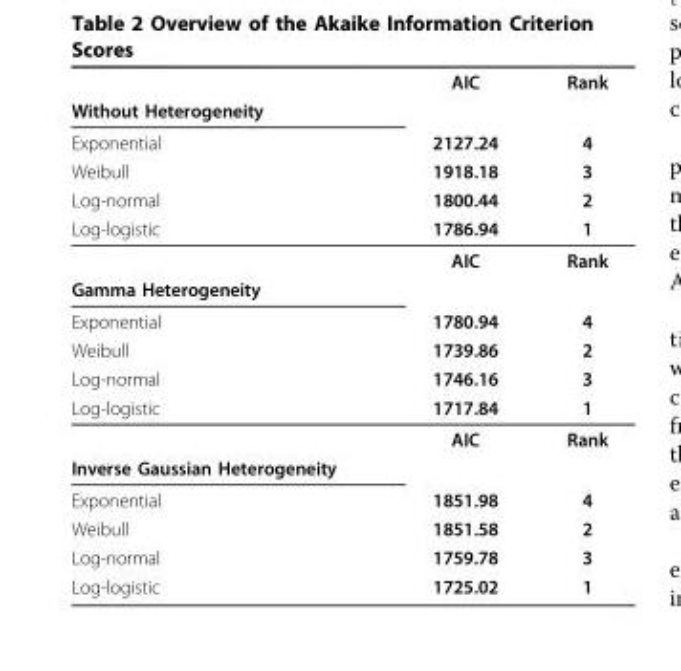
<table><thead><tr><td rowspan="6">Without Heterogeneity Exponential Weibull Log-normal Log-logistic</td><td rowspan="6">AIC 2127.24 1918.18 1800.44 1786.94</td><td rowspan="6">Rank 4 3 2 1</td></tr><tr></tr><tr></tr><tr></tr><tr></tr><tr></tr></thead><tbody><tr><td></td><td>AIC</td><td>Rank</td></tr><tr><td colspan="3">Gamma Heterogeneity</td></tr><tr><td>Exponential</td><td>1780.94</td><td>4</td></tr><tr><td>Weibull</td><td>1739.86</td><td>2</td></tr><tr><td>Log-normal</td><td>1746.16</td><td>3</td></tr><tr><td rowspan="2">Log-logistic</td><td>1717.84</td><td>1</td></tr><tr><td>AIC</td><td>Rank</td></tr><tr><td colspan="3">Inverse Gaussian Heterogeneity</td></tr><tr><td>Exponential</td><td>1851.98</td><td>4</td></tr><tr><td>Weibull</td><td>1851.58</td><td>2</td></tr><tr><td>Log-normal</td><td>1759.78</td><td>3</td></tr><tr><td>Log-logistic</td><td>1725.02</td><td>1</td></tr></tbody></table>